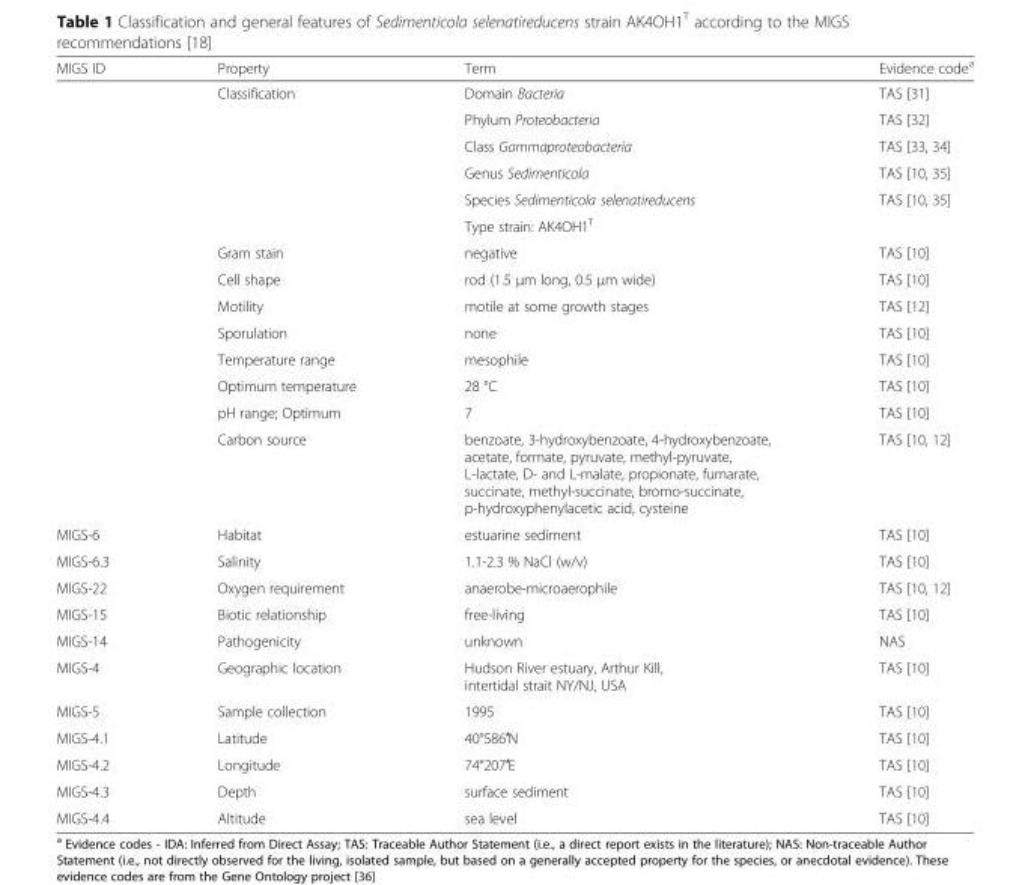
<table><thead><tr><td>MIGS ID</td><td>Property</td><td>Term</td><td>Evidence code<sup>a</sup></td></tr></thead><tbody><tr><td></td><td>Classification</td><td>Domain Bacteria</td><td>TAS [31]</td></tr><tr><td></td><td></td><td>Phylum Proteobacteria</td><td>TAS [32]</td></tr><tr><td></td><td></td><td>Class Gammaproteobacteria</td><td>TAS [33, 34]</td></tr><tr><td></td><td></td><td>Genus Sedimenticola</td><td>TAS [10, 35]</td></tr><tr><td></td><td></td><td>Species Sedimenticola selenatireducens</td><td>TAS [10, 35]</td></tr><tr><td></td><td></td><td>Type strain: AK4OH1<sup>T</sup></td><td></td></tr><tr><td></td><td>Gram stain</td><td>negative</td><td>TAS [10]</td></tr><tr><td></td><td>Cell shape</td><td>rod (1.5 μm long, 0.5 μm wide)</td><td>TAS [10]</td></tr><tr><td></td><td>Motility</td><td>motile at some growth stages</td><td>TAS [12]</td></tr><tr><td></td><td>Sporulation</td><td>none</td><td>TAS [10]</td></tr><tr><td></td><td>Temperature range</td><td>mesophile</td><td>TAS [10]</td></tr><tr><td></td><td>Optimum temperature</td><td>28 °C</td><td>TAS [10]</td></tr><tr><td></td><td>pH range; Optimum</td><td>7</td><td>TAS [10]</td></tr><tr><td></td><td>Carbon source</td><td>benzoate, 3-hydroxybenzoate, 4-hydroxybenzoate, acetate, formate, pyruvate, methyl-pyruvate, L-lactate, D- and L-malate, propionate, fumarate, succinate, methyl-succinate, bromo-succinate, p-hydroxyphenylacetic acid, cysteine</td><td>TAS [10, 12]</td></tr><tr><td>MIGS-6</td><td>Habitat</td><td>estuarine sediment</td><td>TAS [10]</td></tr><tr><td>MIGS-6.3</td><td>Salinity</td><td>1.1-2.3 % NaCl (w/v)</td><td>TAS [10]</td></tr><tr><td>MIGS-22</td><td>Oxygen requirement</td><td>anaerobe-microaerophile</td><td>TAS [10, 12]</td></tr><tr><td>MIGS-15</td><td>Biotic relationship</td><td>free-living</td><td>TAS [10]</td></tr><tr><td>MIGS-14</td><td>Pathogenicity</td><td>unknown</td><td>NAS</td></tr><tr><td>MIGS-4</td><td>Geographic location</td><td>Hudson River estuary, Arthur Kill, intertidal strait NY/NJ, USA</td><td>TAS [10]</td></tr><tr><td>MIGS-5</td><td>Sample collection</td><td>1995</td><td>TAS [10]</td></tr><tr><td>MIGS-4.1</td><td>Latitude</td><td>40°586′N</td><td>TAS [10]</td></tr><tr><td>MIGS-4.2</td><td>Longitude</td><td>74°207′E</td><td>TAS [10]</td></tr><tr><td>MIGS-4.3</td><td>Depth</td><td>surface sediment</td><td>TAS [10]</td></tr><tr><td>MIGS-4.4</td><td>Altitude</td><td>sea level</td><td>TAS [10]</td></tr></tbody></table>